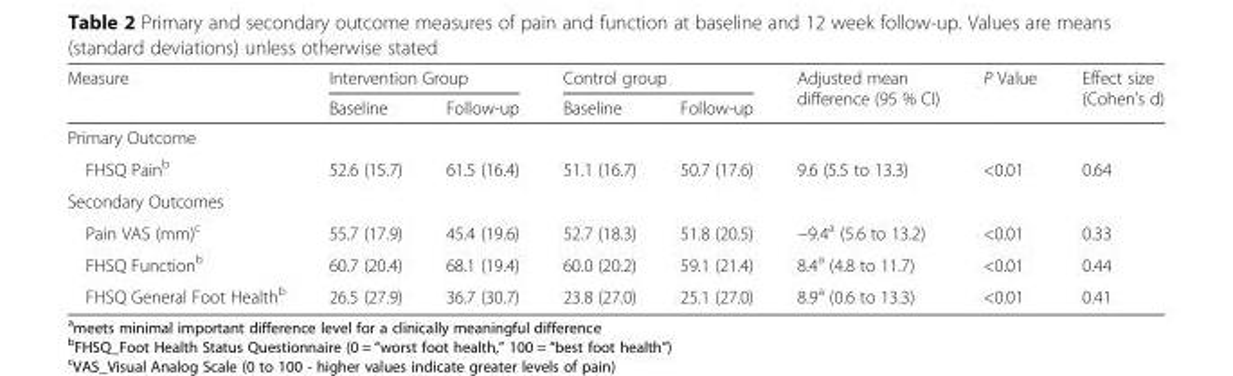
<table><thead><tr><td rowspan="2">Measure</td><td colspan="2">Intervention Group</td><td colspan="2">Control group</td><td rowspan="2">Adjusted mean difference (95 % CI)</td><td rowspan="2">P Value</td><td rowspan="2">Effect size (Cohen’s d)</td></tr><tr><td>Baseline</td><td>Follow-up</td><td>Baseline</td><td>Follow-up</td></tr></thead><tbody><tr><td colspan="8">Primary Outcome</td></tr><tr><td>FHSQ Pain<sup>b</sup></td><td>52.6 (15.7)</td><td>61.5 (16.4)</td><td>51.1 (16.7)</td><td>50.7 (17.6)</td><td>9.6 (5.5 to 13.3)</td><td>&lt;0.01</td><td>0.64</td></tr><tr><td colspan="8">Secondary Outcomes</td></tr><tr><td>Pain VAS (mm)<sup>c</sup></td><td>55.7 (17.9)</td><td>45.4 (19.6)</td><td>52.7 (18.3)</td><td>51.8 (20.5)</td><td>−9.4<sup>a</sup> (5.6 to 13.2)</td><td>&lt;0.01</td><td>0.33</td></tr><tr><td>FHSQ Function<sup>b</sup></td><td>60.7 (20.4)</td><td>68.1 (19.4)</td><td>60.0 (20.2)</td><td>59.1 (21.4)</td><td>8.4<sup>a</sup> (4.8 to 11.7)</td><td>&lt;0.01</td><td>0.44</td></tr><tr><td>FHSQ General Foot Health<sup>b</sup></td><td>26.5 (27.9)</td><td>36.7 (30.7)</td><td>23.8 (27.0)</td><td>25.1 (27.0)</td><td>8.9<sup>a</sup> (0.6 to 13.3)</td><td>&lt;0.01</td><td>0.41</td></tr></tbody></table>